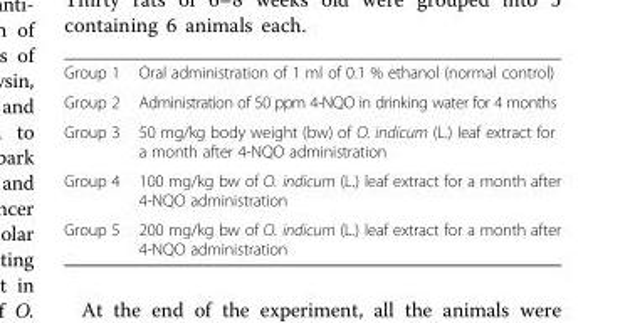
<table><tbody><tr><td>Group 1</td><td>Oral administration of 1 ml of 0.1 % ethanol (normal control)</td></tr><tr><td>Group 2</td><td>Administration of 50 ppm 4-NQO in drinking water for 4 months</td></tr><tr><td>Group 3</td><td>50 mg/kg body weight (bw) of O. indicum (L.) leaf extract for a month after 4-NQO administration</td></tr><tr><td>Group 4</td><td>100 mg/kg bw of O. indicum (L.) leaf extract for a month after 4-NQO administration</td></tr><tr><td>Group 5</td><td>200 mg/kg bw of O. indicum (L.) leaf extract for a month after 4-NQO administration</td></tr></tbody></table>